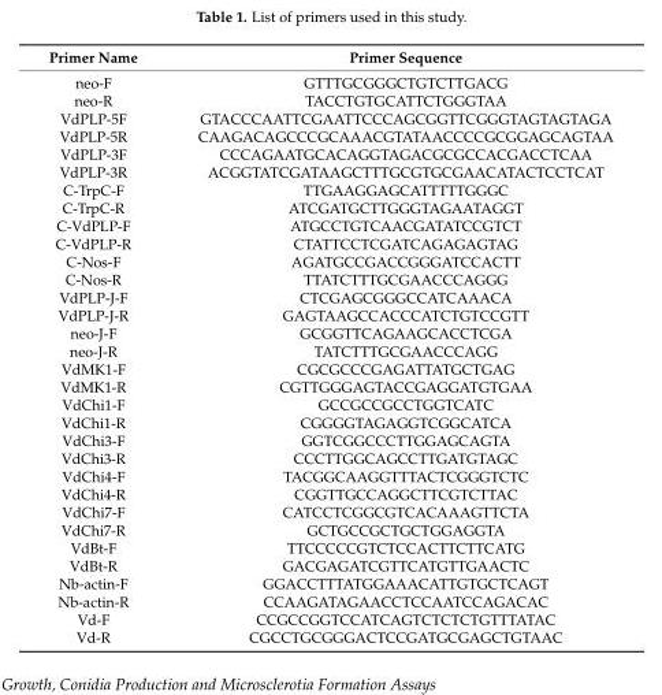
<table><thead><tr><td>Primer Name</td><td>Primer Sequence</td></tr></thead><tbody><tr><td>neo-F</td><td>GTTTGCGGGCTGTCTTGACG</td></tr><tr><td>neo-R</td><td>TACCTGTGCATTCTGGGTAA</td></tr><tr><td>VdPLP-5F</td><td>GTACCCAATTCGAATTCCCAGCGGTTCGGGTAGTAGTAGA</td></tr><tr><td>VdPLP-5R</td><td>CAAGACAGCCCGCAAACGTATAACCCCGCGGAGCAGTAA</td></tr><tr><td>VdPLP-3F</td><td>CCCAGAATGCACAGGTAGACGCGCCACGACCTCAA</td></tr><tr><td>VdPLP-3R</td><td>ACGGTATCGATAAGCTTTGCGTGCGAACATACTCCTCAT</td></tr><tr><td>C-TrpC-F</td><td>TTGAAGGAGCATTTTTGGGC</td></tr><tr><td>C-TrpC-R</td><td>ATCGATGCTTGGGTAGAATAGGT</td></tr><tr><td>C-VdPLP-F</td><td>ATGCCTGTCAACGATATCCGTCT</td></tr><tr><td>C-VdPLP-R</td><td>CTATTCCTCGATCAGAGAGTAG</td></tr><tr><td>C-Nos-F</td><td>AGATGCCGACCGGGATCCACTT</td></tr><tr><td>C-Nos-R</td><td>TTATCTTTGCGAACCCAGGG</td></tr><tr><td>VdPLP-J-F</td><td>CTCGAGCGGGCCATCAAACA</td></tr><tr><td>VdPLP-J-R</td><td>GAGTAAGCCACCCATCTGTCCGTT</td></tr><tr><td>neo-J-F</td><td>GCGGTTCAGAAGCACCTCGA</td></tr><tr><td>neo-J-R</td><td>TATCTTTGCGAACCCAGG</td></tr><tr><td>VdMK1-F</td><td>CGCGCCCGAGATTATGCTGAG</td></tr><tr><td>VdMK1-R</td><td>CGTTGGGAGTACCGAGGATGTGAA</td></tr><tr><td>VdChi1-F</td><td>GCCGCCGCCTGGTCATC</td></tr><tr><td>VdChi1-R</td><td>CGGGGTAGAGGTCGGCATCA</td></tr><tr><td>VdChi3-F</td><td>GGTCGGCCCTTGGAGCAGTA</td></tr><tr><td>VdChi3-R</td><td>CCCTTGGCAGCCTTGATGTAGC</td></tr><tr><td>VdChi4-F</td><td>TACGGCAAGGTTTACTCGGGTCTC</td></tr><tr><td>VdChi4-R</td><td>CGGTTGCCAGGCTTCGTCTTAC</td></tr><tr><td>VdChi7-F</td><td>CATCCTCGGCGTCACAAAGTTCTA</td></tr><tr><td>VdChi7-R</td><td>GCTGCCGCTGCTGGAGGTA</td></tr><tr><td>VdBt-F</td><td>TTCCCCCGTCTCCACTTCTTCATG</td></tr><tr><td>VdBt-R</td><td>GACGAGATCGTTCATGTTGAACTC</td></tr><tr><td>Nb-actin-F</td><td>GGACCTTTATGGAAACATTGTGCTCAGT</td></tr><tr><td>Nb-actin-R</td><td>CCAAGATAGAACCTCCAATCCAGACAC</td></tr><tr><td>Vd-F</td><td>CCGCCGGTCCATCAGTCTCTCTGTTTATAC</td></tr><tr><td>Vd-R</td><td>CGCCTGCGGGACTCCGATGCGAGCTGTAAC</td></tr></tbody></table>